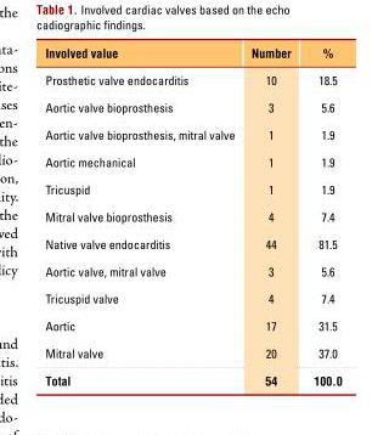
<table><thead><tr><td>Involved value</td><td>Number</td><td>%</td></tr></thead><tbody><tr><td>Prosthetic valve endocarditis</td><td>10</td><td>18.5</td></tr><tr><td>Aortic valve bioprosthesis</td><td>3</td><td>5.6</td></tr><tr><td>Aortic valve bioprosthesis, mitral valve</td><td>1</td><td>1.9</td></tr><tr><td>Aortic mechanical</td><td>1</td><td>1.9</td></tr><tr><td>Tricuspid</td><td>1</td><td>1.9</td></tr><tr><td>Mitral valve bioprosthesis</td><td>4</td><td>7.4</td></tr><tr><td>Native valve endocarditis</td><td>44</td><td>81.5</td></tr><tr><td>Aortic valve, mitral valve</td><td>3</td><td>5.6</td></tr><tr><td>Tricuspid valve</td><td>4</td><td>7.4</td></tr><tr><td>Aortic</td><td>17</td><td>31.5</td></tr><tr><td>Mitral valve</td><td>20</td><td>37.0</td></tr><tr><td>Total</td><td>54</td><td>100.0</td></tr></tbody></table>